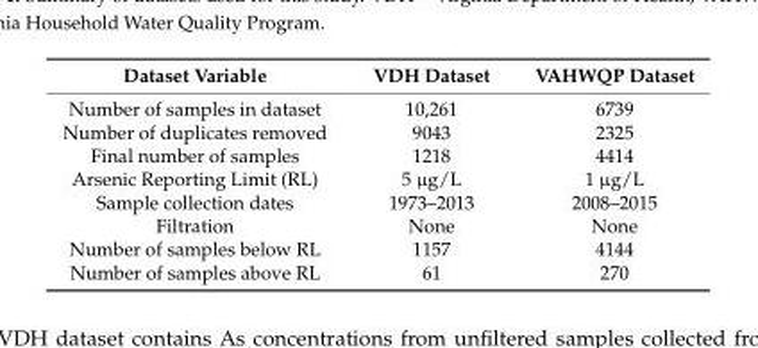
<table><thead><tr><td>Dataset Variable</td><td>VDH Dataset</td><td>VAHWQP Dataset</td></tr></thead><tbody><tr><td>Number of samples in dataset</td><td>10,261</td><td>6739</td></tr><tr><td>Number of duplicates removed</td><td>9043</td><td>2325</td></tr><tr><td>Final number of samples</td><td>1218</td><td>4414</td></tr><tr><td>Arsenic Reporting Limit (RL)</td><td>5 µg/L</td><td>1 µg/L</td></tr><tr><td>Sample collection dates</td><td>1973–2013</td><td>2008–2015</td></tr><tr><td>Filtration</td><td>None</td><td>None</td></tr><tr><td>Number of samples below RL</td><td>1157</td><td>4144</td></tr><tr><td>Number of samples above RL</td><td>61</td><td>270</td></tr></tbody></table>